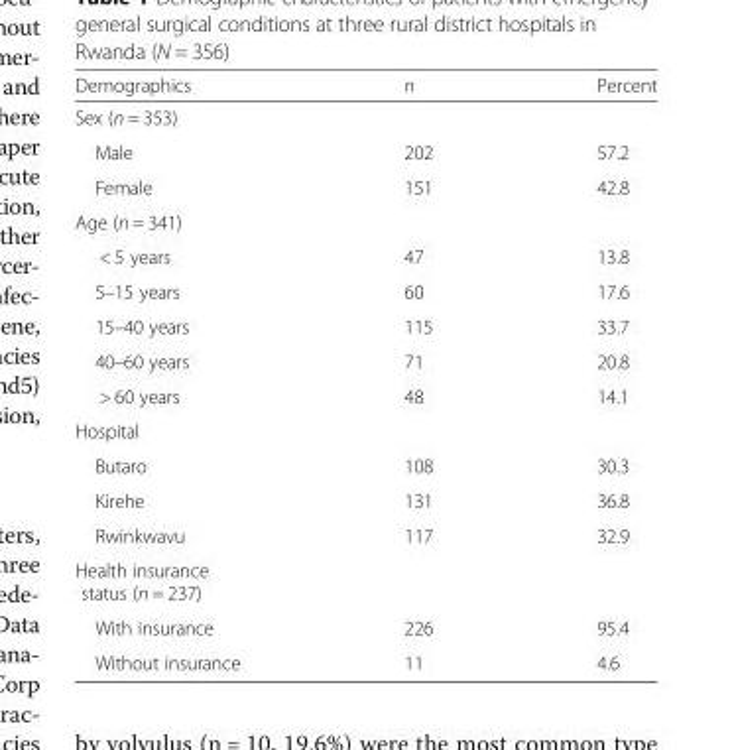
<table><thead><tr><td>Demographics</td><td>n</td><td>Percent</td></tr></thead><tbody><tr><td colspan="3">Sex (n = 353)</td></tr><tr><td>Male</td><td>202</td><td>57.2</td></tr><tr><td>Female</td><td>151</td><td>42.8</td></tr><tr><td colspan="3">Age (n = 341)</td></tr><tr><td>&lt; 5 years</td><td>47</td><td>13.8</td></tr><tr><td>5–15 years</td><td>60</td><td>17.6</td></tr><tr><td>15–40 years</td><td>115</td><td>33.7</td></tr><tr><td>40–60 years</td><td>71</td><td>20.8</td></tr><tr><td>&gt; 60 years</td><td>48</td><td>14.1</td></tr><tr><td colspan="3">Hospital</td></tr><tr><td>Butaro</td><td>108</td><td>30.3</td></tr><tr><td>Kirehe</td><td>131</td><td>36.8</td></tr><tr><td>Rwinkwavu</td><td>117</td><td>32.9</td></tr><tr><td colspan="3">Health insurance status (n = 237)</td></tr><tr><td>With insurance</td><td>226</td><td>95.4</td></tr><tr><td>Without insurance</td><td>11</td><td>4.6</td></tr></tbody></table>